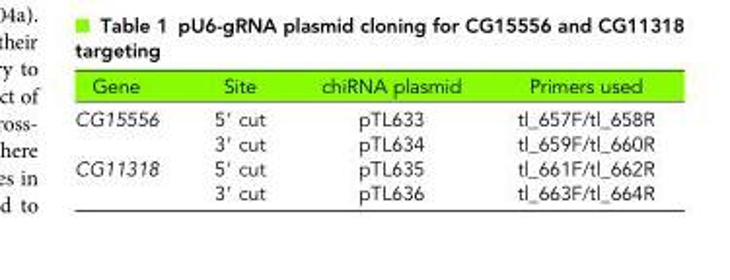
<table><thead><tr><td>Gene</td><td>Site</td><td>chiRNA plasmid</td><td>Primers used</td></tr></thead><tbody><tr><td rowspan="2">CG15556</td><td>5′ cut</td><td>pTL633</td><td>tl_657F/tl_658R</td></tr><tr><td>3′ cut</td><td>pTL634</td><td>tl_659F/tl_660R</td></tr><tr><td rowspan="2">CG11318</td><td>5′ cut</td><td>pTL635</td><td>tl_661F/tl_662R</td></tr><tr><td>3′ cut</td><td>pTL636</td><td>tl_663F/tl_664R</td></tr></tbody></table>